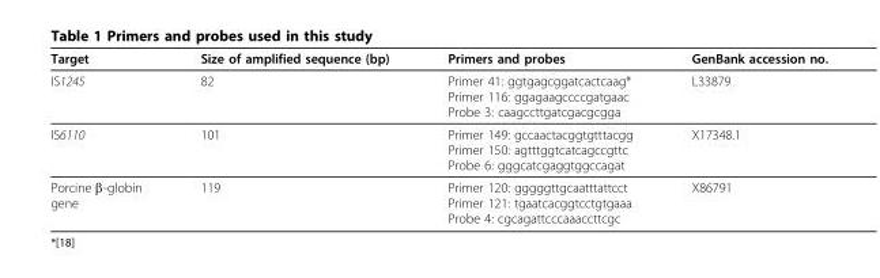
<table><thead><tr><td>Target</td><td>Size of amplified sequence (bp)</td><td>Primers and probes</td><td>GenBank accession no.</td></tr></thead><tbody><tr><td>IS1245</td><td>82</td><td>Primer 41: ggtgagcggatcactcaag* Primer 116: ggagaagccccgatgaac Probe 3: caagccttgatcgacgcgga</td><td>L33879</td></tr><tr><td>IS6110</td><td>101</td><td>Primer 149: gccaactacggtgtttacgg Primer 150: agtttggtcatcagccgttc Probe 6: gggcatcgaggtggccagat</td><td>X17348.1</td></tr><tr><td>Porcine β-globin gene</td><td>119</td><td>Primer 120: gggggttgcaatttattcct Primer 121: tgaatcacggtcctgtgaaa Probe 4: cgcagattcccaaaccttcgc</td><td>X86791</td></tr></tbody></table>